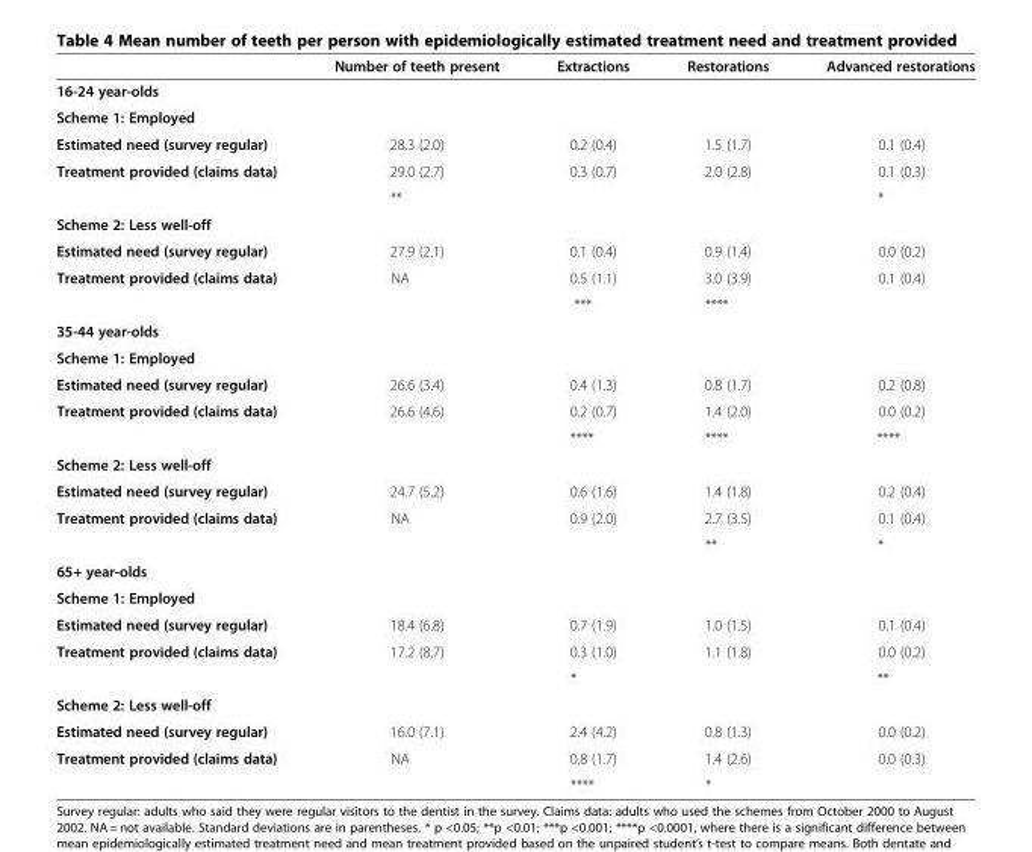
<table><thead><tr><td></td><td>Number of teeth present</td><td>Extractions</td><td>Restorations</td><td>Advanced restorations</td></tr></thead><tbody><tr><td colspan="5">16-24 year-olds</td></tr><tr><td colspan="5">Scheme 1: Employed</td></tr><tr><td>Estimated need (survey regular)</td><td>28.3 (2.0)</td><td>0.2 (0.4)</td><td>1.5 (1.7)</td><td>0.1 (0.4)</td></tr><tr><td rowspan="2">Treatment provided (claims data)</td><td>29.0 (2.7)</td><td>0.3 (0.7)</td><td>2.0 (2.8)</td><td>0.1 (0.3)</td></tr><tr><td>**</td><td></td><td></td><td>*</td></tr><tr><td colspan="5">Scheme 2: Less well-off</td></tr><tr><td>Estimated need (survey regular)</td><td>27.9 (2.1)</td><td>0.1 (0.4)</td><td>0.9 (1.4)</td><td>0.0 (0.2)</td></tr><tr><td rowspan="2">Treatment provided (claims data)</td><td>NA</td><td>0.5 (1.1)</td><td>3.0 (3.9)</td><td>0.1 (0.4)</td></tr><tr><td></td><td>***</td><td>****</td><td></td></tr><tr><td colspan="5">35-44 year-olds</td></tr><tr><td colspan="5">Scheme 1: Employed</td></tr><tr><td>Estimated need (survey regular)</td><td>26.6 (3.4)</td><td>0.4 (1.3)</td><td>0.8 (1.7)</td><td>0.2 (0.8)</td></tr><tr><td rowspan="2">Treatment provided (claims data)</td><td>26.6 (4.6)</td><td>0.2 (0.7)</td><td>1.4 (2.0)</td><td>0.0 (0.2)</td></tr><tr><td></td><td>****</td><td>****</td><td>****</td></tr><tr><td colspan="5">Scheme 2: Less well-off</td></tr><tr><td>Estimated need (survey regular)</td><td>24.7 (5.2)</td><td>0.6 (1.6)</td><td>1.4 (1.8)</td><td>0.2 (0.4)</td></tr><tr><td rowspan="2">Treatment provided (claims data)</td><td>NA</td><td>0.9 (2.0)</td><td>2.7 (3.5)</td><td>0.1 (0.4)</td></tr><tr><td></td><td></td><td>**</td><td>*</td></tr><tr><td colspan="5">65+ year-olds</td></tr><tr><td colspan="5">Scheme 1: Employed</td></tr><tr><td>Estimated need (survey regular)</td><td>18.4 (6.8)</td><td>0.7 (1.9)</td><td>1.0 (1.5)</td><td>0.1 (0.4)</td></tr><tr><td rowspan="2">Treatment provided (claims data)</td><td>17.2 (8.7)</td><td>0.3 (1.0)</td><td>1.1 (1.8)</td><td>0.0 (0.2)</td></tr><tr><td></td><td>*</td><td></td><td>**</td></tr><tr><td colspan="5">Scheme 2: Less well-off</td></tr><tr><td>Estimated need (survey regular)</td><td>16.0 (7.1)</td><td>2.4 (4.2)</td><td>0.8 (1.3)</td><td>0.0 (0.2)</td></tr><tr><td rowspan="2">Treatment provided (claims data)</td><td>NA</td><td>0.8 (1.7)</td><td>1.4 (2.6)</td><td>0.0 (0.3)</td></tr><tr><td></td><td>****</td><td>*</td><td></td></tr></tbody></table>